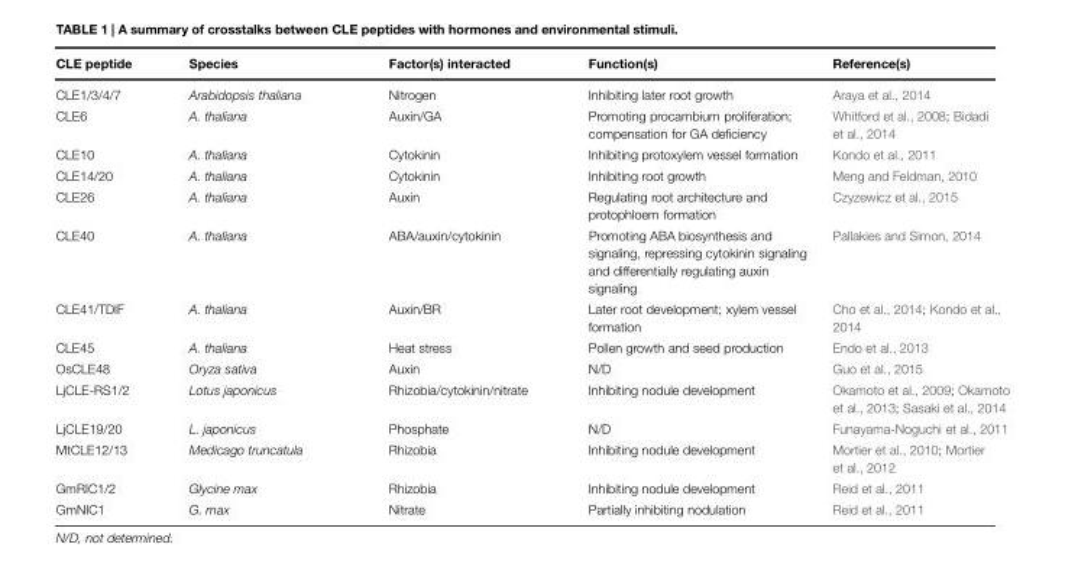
<table><thead><tr><td>CLE peptide</td><td>Species</td><td>Factor(s) interacted</td><td>Function(s)</td><td>Reference(s)</td></tr></thead><tbody><tr><td>CLE1/3/4/7</td><td>Arabidopsis thaliana</td><td>Nitrogen</td><td>Inhibiting later root growth</td><td>Araya et al., 2014</td></tr><tr><td>CLE6</td><td>A. thaliana</td><td>Auxin/GA</td><td>Promoting procambium proliferation; compensation for GA deficiency</td><td>Whitford et al., 2008; Bidadi et al., 2014</td></tr><tr><td>CLE10</td><td>A. thaliana</td><td>Cytokinin</td><td>Inhibiting protoxylem vessel formation</td><td>Kondo et al., 2011</td></tr><tr><td>CLE14/20</td><td>A. thaliana</td><td>Cytokinin</td><td>Inhibiting root growth</td><td>Meng and Feldman, 2010</td></tr><tr><td>CLE26</td><td>A. thaliana</td><td>Auxin</td><td>Regulating root architecture and protophloem formation</td><td>Czyzewicz et al., 2015</td></tr><tr><td>CLE40</td><td>A. thaliana</td><td>ABA/auxin/cytokinin</td><td>Promoting ABA biosynthesis and signaling, repressing cytokinin signaling and differentially regulating auxin signaling</td><td>Pallakies and Simon, 2014</td></tr><tr><td>CLE41/TDIF</td><td>A. thaliana</td><td>Auxin/BR</td><td>Later root development; xylem vessel formation</td><td>Cho et al., 2014; Kondo et al., 2014</td></tr><tr><td>CLE45</td><td>A. thaliana</td><td>Heat stress</td><td>Pollen growth and seed production</td><td>Endo et al., 2013</td></tr><tr><td>OsCLE48</td><td>Oryza sativa</td><td>Auxin</td><td>N/D</td><td>Guo et al., 2015</td></tr><tr><td>LjCLE-RS1/2</td><td>Lotus japonicus</td><td>Rhizobia/cytokinin/nitrate</td><td>Inhibiting nodule development</td><td>Okamoto et al., 2009; Okamoto et al., 2013; Sasaki et al., 2014</td></tr><tr><td>LjCLE19/20</td><td>L. japonicus</td><td>Phosphate</td><td>N/D</td><td>Funayama-Noguchi et al., 2011</td></tr><tr><td>MtCLE12/13</td><td>Medicago truncatula</td><td>Rhizobia</td><td>Inhibiting nodule development</td><td>Mortier et al., 2010; Mortier et al., 2012</td></tr><tr><td>GmRIC1/2</td><td>Glycine max</td><td>Rhizobia</td><td>Inhibiting nodule development</td><td>Reid et al., 2011</td></tr><tr><td>GmNIC1</td><td>G. max</td><td>Nitrate</td><td>Partially inhibiting nodulation</td><td>Reid et al., 2011</td></tr></tbody></table>